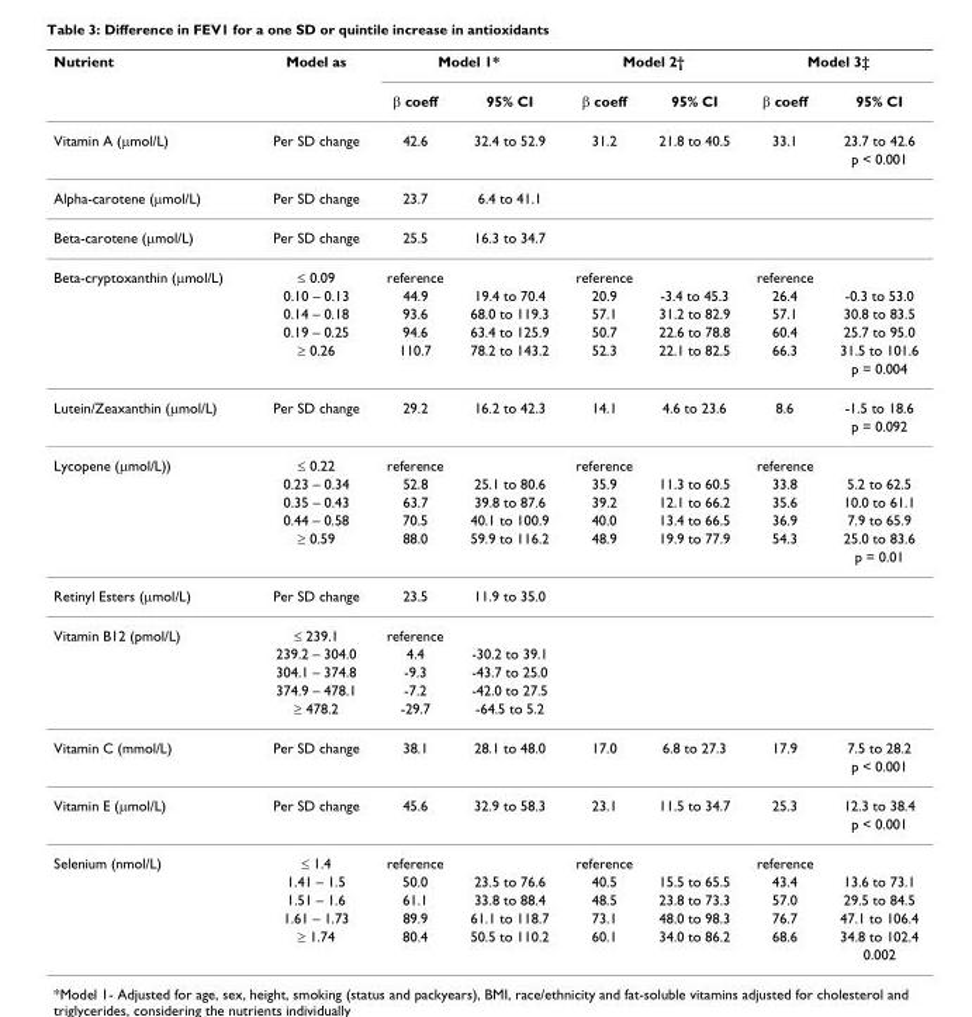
<table><thead><tr><td rowspan="2">Nutrient</td><td rowspan="2">Model as</td><td colspan="2">Model 1*</td><td colspan="2">Model 2†</td><td colspan="2">Model 3‡</td></tr><tr><td>β coeff</td><td>95% CI</td><td>β coeff</td><td>95% CI</td><td>β coeff</td><td>95% CI</td></tr></thead><tbody><tr><td rowspan="2">Vitamin A (μmol/L)</td><td>Per SD change</td><td>42.6</td><td>32.4 to 52.9</td><td>31.2</td><td>21.8 to 40.5</td><td>33.1</td><td>23.7 to 42.6</td></tr><tr><td></td><td></td><td></td><td></td><td></td><td></td><td>p &lt; 0.001</td></tr><tr><td>Alpha-carotene (μmol/L)</td><td>Per SD change</td><td>23.7</td><td>6.4 to 41.1</td><td></td><td></td><td></td><td></td></tr><tr><td>Beta-carotene (μmol/L)</td><td>Per SD change</td><td>25.5</td><td>16.3 to 34.7</td><td></td><td></td><td></td><td></td></tr><tr><td rowspan="6">Beta-cryptoxanthin (μmol/L)</td><td>≤ 0.09</td><td>reference</td><td></td><td>reference</td><td></td><td>reference</td><td></td></tr><tr><td>0.10 – 0.13</td><td>44.9</td><td>19.4 to 70.4</td><td>20.9</td><td>-3.4 to 45.3</td><td>26.4</td><td>-0.3 to 53.0</td></tr><tr><td>0.14 – 0.18</td><td>93.6</td><td>68.0 to 119.3</td><td>57.1</td><td>31.2 to 82.9</td><td>57.1</td><td>30.8 to 83.5</td></tr><tr><td>0.19 – 0.25</td><td>94.6</td><td>63.4 to 125.9</td><td>50.7</td><td>22.6 to 78.8</td><td>60.4</td><td>25.7 to 95.0</td></tr><tr><td>≥ 0.26</td><td>110.7</td><td>78.2 to 143.2</td><td>52.3</td><td>22.1 to 82.5</td><td>66.3</td><td>31.5 to 101.6</td></tr><tr><td></td><td></td><td></td><td></td><td></td><td></td><td>p = 0.004</td></tr><tr><td rowspan="2">Lutein/Zeaxanthin (μmol/L)</td><td>Per SD change</td><td>29.2</td><td>16.2 to 42.3</td><td>14.1</td><td>4.6 to 23.6</td><td>8.6</td><td>-1.5 to 18.6</td></tr><tr><td></td><td></td><td></td><td></td><td></td><td></td><td>p = 0.092</td></tr><tr><td rowspan="6">Lycopene (μmol/L))</td><td>≤ 0.22</td><td>reference</td><td></td><td>reference</td><td></td><td>reference</td><td></td></tr><tr><td>0.23 – 0.34</td><td>52.8</td><td>25.1 to 80.6</td><td>35.9</td><td>11.3 to 60.5</td><td>33.8</td><td>5.2 to 62.5</td></tr><tr><td>0.35 – 0.43</td><td>63.7</td><td>39.8 to 87.6</td><td>39.2</td><td>12.1 to 66.2</td><td>35.6</td><td>10.0 to 61.1</td></tr><tr><td>0.44 – 0.58</td><td>70.5</td><td>40.1 to 100.9</td><td>40.0</td><td>13.4 to 66.5</td><td>36.9</td><td>7.9 to 65.9</td></tr><tr><td>≥ 0.59</td><td>88.0</td><td>59.9 to 116.2</td><td>48.9</td><td>19.9 to 77.9</td><td>54.3</td><td>25.0 to 83.6</td></tr><tr><td></td><td></td><td></td><td></td><td></td><td></td><td>p = 0.01</td></tr><tr><td>Retinyl Esters (μmol/L)</td><td>Per SD change</td><td>23.5</td><td>11.9 to 35.0</td><td></td><td></td><td></td><td></td></tr><tr><td rowspan="5">Vitamin B12 (pmol/L)</td><td>≤ 239.1</td><td>reference</td><td></td><td></td><td></td><td></td><td></td></tr><tr><td>239.2 – 304.0</td><td>4.4</td><td>-30.2 to 39.1</td><td></td><td></td><td></td><td></td></tr><tr><td>304.1 – 374.8</td><td>-9.3</td><td>-43.7 to 25.0</td><td></td><td></td><td></td><td></td></tr><tr><td>374.9 – 478.1</td><td>-7.2</td><td>-42.0 to 27.5</td><td></td><td></td><td></td><td></td></tr><tr><td>≥ 478.2</td><td>-29.7</td><td>-64.5 to 5.2</td><td></td><td></td><td></td><td></td></tr><tr><td rowspan="2">Vitamin C (mmol/L)</td><td>Per SD change</td><td>38.1</td><td>28.1 to 48.0</td><td>17.0</td><td>6.8 to 27.3</td><td>17.9</td><td>7.5 to 28.2</td></tr><tr><td></td><td></td><td></td><td></td><td></td><td></td><td>p &lt; 0.001</td></tr><tr><td rowspan="2">Vitamin E (μmol/L)</td><td>Per SD change</td><td>45.6</td><td>32.9 to 58.3</td><td>23.1</td><td>11.5 to 34.7</td><td>25.3</td><td>12.3 to 38.4</td></tr><tr><td></td><td></td><td></td><td></td><td></td><td></td><td>p &lt; 0.001</td></tr><tr><td rowspan="6">Selenium (nmol/L)</td><td>≤ 1.4</td><td>reference</td><td></td><td>reference</td><td></td><td>reference</td><td></td></tr><tr><td>1.41 – 1.5</td><td>50.0</td><td>23.5 to 76.6</td><td>40.5</td><td>15.5 to 65.5</td><td>43.4</td><td>13.6 to 73.1</td></tr><tr><td>1.51 – 1.6</td><td>61.1</td><td>33.8 to 88.4</td><td>48.5</td><td>23.8 to 73.3</td><td>57.0</td><td>29.5 to 84.5</td></tr><tr><td>1.61 – 1.73</td><td>89.9</td><td>61.1 to 118.7</td><td>73.1</td><td>48.0 to 98.3</td><td>76.7</td><td>47.1 to 106.4</td></tr><tr><td>≥ 1.74</td><td>80.4</td><td>50.5 to 110.2</td><td>60.1</td><td>34.0 to 86.2</td><td>68.6</td><td>34.8 to 102.4</td></tr><tr><td></td><td></td><td></td><td></td><td></td><td></td><td>0.002</td></tr></tbody></table>